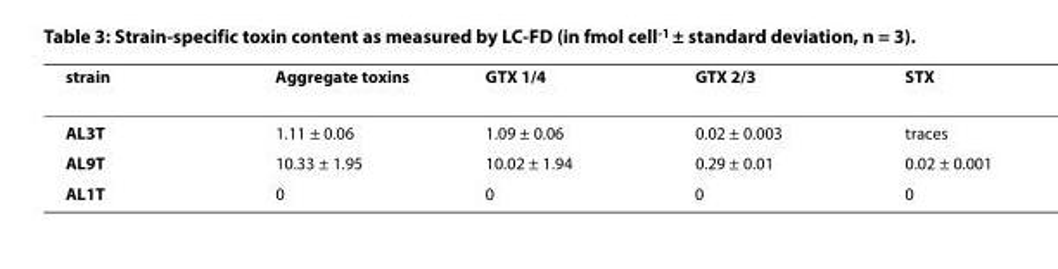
<table><thead><tr><td>strain</td><td>Aggregate toxins</td><td>GTX 1/4</td><td>GTX 2/3</td><td>STX</td></tr></thead><tbody><tr><td>AL3T</td><td>1.11 ± 0.06</td><td>1.09 ± 0.06</td><td>0.02 ± 0.003</td><td>traces</td></tr><tr><td>AL9T</td><td>10.33 ± 1.95</td><td>10.02 ± 1.94</td><td>0.29 ± 0.01</td><td>0.02 ± 0.001</td></tr><tr><td>AL1T</td><td>0</td><td>0</td><td>0</td><td>0</td></tr></tbody></table>